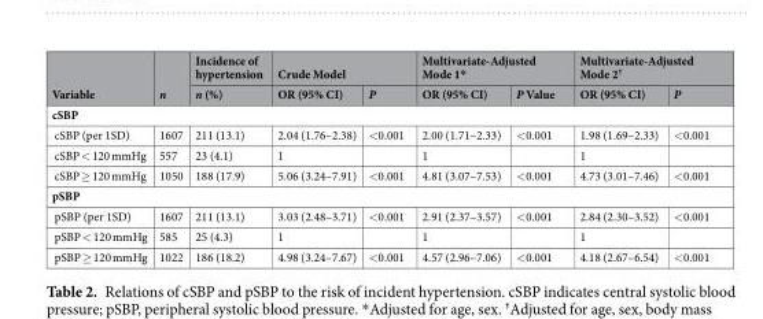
<table><thead><tr><td rowspan="2">Variable</td><td rowspan="2">n</td><td rowspan="2">Incidence of hypertension n (%)</td><td colspan="2">Crude Model</td><td colspan="2">Multivariate-Adjusted Mode 1*</td><td colspan="2">Multivariate-Adjusted Mode 2<sup>†</sup></td></tr><tr><td>OR (95% CI)</td><td>P</td><td>OR (95% CI)</td><td>P Value</td><td>OR (95% CI)</td><td>P</td></tr></thead><tbody><tr><td colspan="9">cSBP</td></tr><tr><td>cSBP (per 1SD)</td><td>1607</td><td>211 (13.1)</td><td>2.04 (1.76–2.38)</td><td>&lt;0.001</td><td>2.00 (1.71–2.33)</td><td>&lt;0.001</td><td>1.98 (1.69–2.33)</td><td>&lt;0.001</td></tr><tr><td>cSBP &lt; 120 mmHg</td><td>557</td><td>23 (4.1)</td><td>1</td><td></td><td>1</td><td></td><td>1</td><td></td></tr><tr><td>cSBP ≥ 120 mmHg</td><td>1050</td><td>188 (17.9)</td><td>5.06 (3.24–7.91)</td><td>&lt;0.001</td><td>4.81 (3.07–7.53)</td><td>&lt;0.001</td><td>4.73 (3.01–7.46)</td><td>&lt;0.001</td></tr><tr><td colspan="9">pSBP</td></tr><tr><td>pSBP (per 1SD)</td><td>1607</td><td>211 (13.1)</td><td>3.03 (2.48–3.71)</td><td>&lt;0.001</td><td>2.91 (2.37–3.57)</td><td>&lt;0.001</td><td>2.84 (2.30–3.52)</td><td>&lt;0.001</td></tr><tr><td>pSBP &lt; 120 mmHg</td><td>585</td><td>25 (4.3)</td><td>1</td><td></td><td>1</td><td></td><td>1</td><td></td></tr><tr><td>pSBP ≥ 120 mmHg</td><td>1022</td><td>186 (18.2)</td><td>4.98 (3.24–7.67)</td><td>&lt;0.001</td><td>4.57 (2.96–7.06)</td><td>&lt;0.001</td><td>4.18 (2.67–6.54)</td><td>&lt;0.001</td></tr></tbody></table>